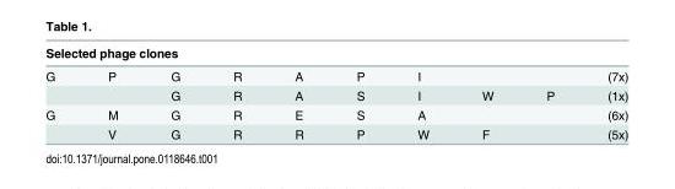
<table><thead><tr><td colspan="10">Selected phage clones</td></tr><tr><td>G</td><td>P</td><td>G</td><td>R</td><td>A</td><td>P</td><td>I</td><td></td><td></td><td>(7x)</td></tr></thead><tbody><tr><td></td><td></td><td>G</td><td>R</td><td>A</td><td>S</td><td>I</td><td>W</td><td>P</td><td>(1x)</td></tr><tr><td rowspan="2">G</td><td>M</td><td>G</td><td>R</td><td>E</td><td>S</td><td>A</td><td></td><td></td><td>(6x)</td></tr><tr><td>V</td><td>G</td><td>R</td><td>R</td><td>P</td><td>W</td><td>F</td><td></td><td>(5x)</td></tr></tbody></table>